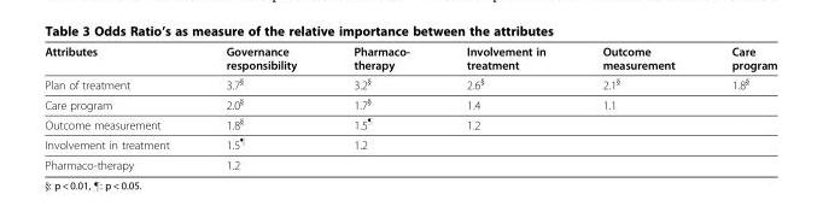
<table><thead><tr><td>Attributes</td><td>Governance responsibility</td><td>Pharmaco- therapy</td><td>Involvement in treatment</td><td>Outcome measurement</td><td>Care program</td></tr></thead><tbody><tr><td>Plan of treatment</td><td>3.7<sup>§</sup></td><td>3.2<sup>§</sup></td><td>2.6<sup>§</sup></td><td>2.1<sup>§</sup></td><td>1.8<sup>§</sup></td></tr><tr><td>Care program</td><td>2.0<sup>§</sup></td><td>1.7<sup>§</sup></td><td>1.4</td><td>1.1</td><td></td></tr><tr><td>Outcome measurement</td><td>1.8<sup>§</sup></td><td>1.5<sup>¶</sup></td><td>1.2</td><td></td><td></td></tr><tr><td>Involvement in treatment</td><td>1.5<sup>¶</sup></td><td>1.2</td><td></td><td></td><td></td></tr><tr><td>Pharmaco-therapy</td><td>1.2</td><td></td><td></td><td></td><td></td></tr></tbody></table>